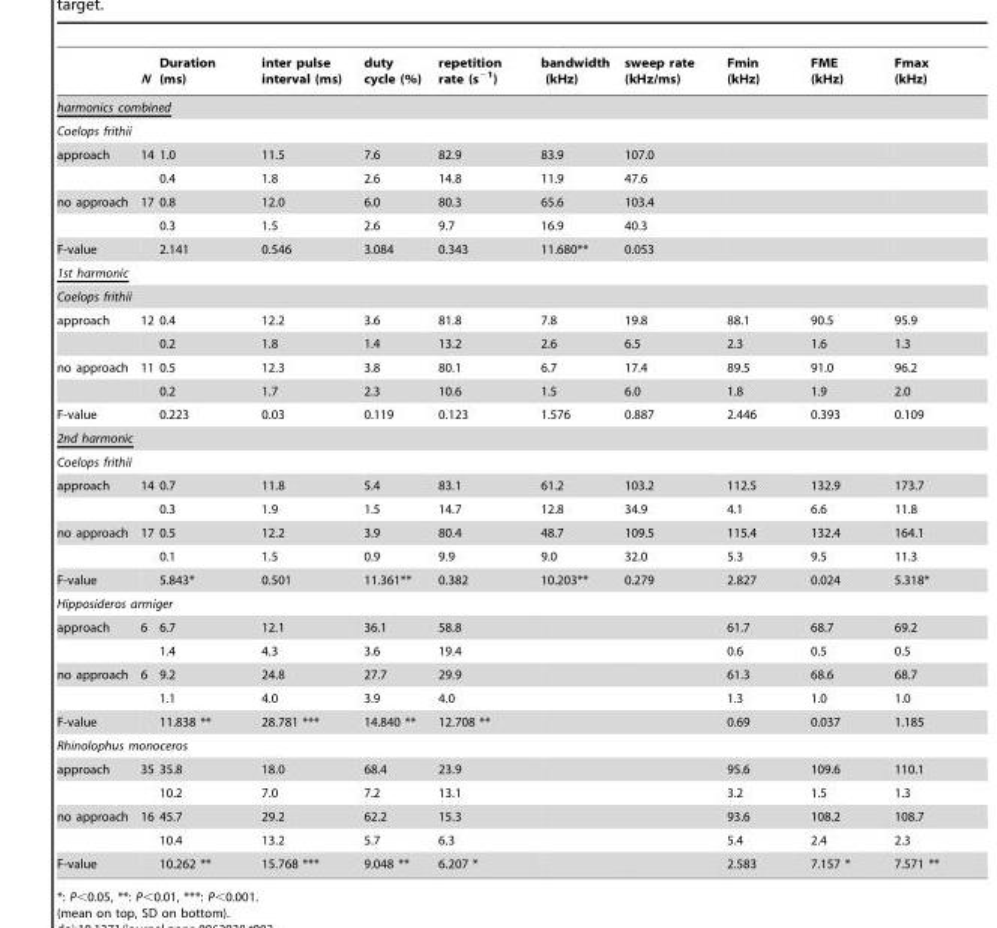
<table><thead><tr><td></td><td>N</td><td>Duration (ms)</td><td>inter pulse interval (ms)</td><td>duty cycle (%)</td><td>repetition rate (s<sup>−1</sup>)</td><td>bandwidth (kHz)</td><td>sweep rate (kHz/ms)</td><td>Fmin (kHz)</td><td>FME (kHz)</td><td>Fmax (kHz)</td></tr></thead><tbody><tr><td colspan="11">harmonics combined</td></tr><tr><td colspan="11">Coelops frithii</td></tr><tr><td rowspan="2">approach</td><td>14</td><td>1.0</td><td>11.5</td><td>7.6</td><td>82.9</td><td>83.9</td><td>107.0</td><td></td><td></td><td></td></tr><tr><td></td><td>0.4</td><td>1.8</td><td>2.6</td><td>14.8</td><td>11.9</td><td>47.6</td><td></td><td></td><td></td></tr><tr><td rowspan="2">no approach</td><td>17</td><td>0.8</td><td>12.0</td><td>6.0</td><td>80.3</td><td>65.6</td><td>103.4</td><td></td><td></td><td></td></tr><tr><td></td><td>0.3</td><td>1.5</td><td>2.6</td><td>9.7</td><td>16.9</td><td>40.3</td><td></td><td></td><td></td></tr><tr><td>F-value</td><td></td><td>2.141</td><td>0.546</td><td>3.084</td><td>0.343</td><td>11.680**</td><td>0.053</td><td></td><td></td><td></td></tr><tr><td colspan="11">1st harmonic</td></tr><tr><td colspan="11">Coelops frithii</td></tr><tr><td rowspan="2">approach</td><td>12</td><td>0.4</td><td>12.2</td><td>3.6</td><td>81.8</td><td>7.8</td><td>19.8</td><td>88.1</td><td>90.5</td><td>95.9</td></tr><tr><td></td><td>0.2</td><td>1.8</td><td>1.4</td><td>13.2</td><td>2.6</td><td>6.5</td><td>2.3</td><td>1.6</td><td>1.3</td></tr><tr><td rowspan="2">no approach</td><td>11</td><td>0.5</td><td>12.3</td><td>3.8</td><td>80.1</td><td>6.7</td><td>17.4</td><td>89.5</td><td>91.0</td><td>96.2</td></tr><tr><td></td><td>0.2</td><td>1.7</td><td>2.3</td><td>10.6</td><td>1.5</td><td>6.0</td><td>1.8</td><td>1.9</td><td>2.0</td></tr><tr><td>F-value</td><td></td><td>0.223</td><td>0.03</td><td>0.119</td><td>0.123</td><td>1.576</td><td>0.887</td><td>2.446</td><td>0.393</td><td>0.109</td></tr><tr><td colspan="11">2nd harmonic</td></tr><tr><td colspan="11">Coelops frithii</td></tr><tr><td rowspan="2">approach</td><td>14</td><td>0.7</td><td>11.8</td><td>5.4</td><td>83.1</td><td>61.2</td><td>103.2</td><td>112.5</td><td>132.9</td><td>173.7</td></tr><tr><td></td><td>0.3</td><td>1.9</td><td>1.5</td><td>14.7</td><td>12.8</td><td>34.9</td><td>4.1</td><td>6.6</td><td>11.8</td></tr><tr><td rowspan="2">no approach</td><td>17</td><td>0.5</td><td>12.2</td><td>3.9</td><td>80.4</td><td>48.7</td><td>109.5</td><td>115.4</td><td>132.4</td><td>164.1</td></tr><tr><td></td><td>0.1</td><td>1.5</td><td>0.9</td><td>9.9</td><td>9.0</td><td>32.0</td><td>5.3</td><td>9.5</td><td>11.3</td></tr><tr><td>F-value</td><td></td><td>5.843*</td><td>0.501</td><td>11.361**</td><td>0.382</td><td>10.203**</td><td>0.279</td><td>2.827</td><td>0.024</td><td>5.318*</td></tr><tr><td colspan="11">Hipposideros armiger</td></tr><tr><td rowspan="2">approach</td><td>6</td><td>6.7</td><td>12.1</td><td>36.1</td><td>58.8</td><td></td><td></td><td>61.7</td><td>68.7</td><td>69.2</td></tr><tr><td></td><td>1.4</td><td>4.3</td><td>3.6</td><td>19.4</td><td></td><td></td><td>0.6</td><td>0.5</td><td>0.5</td></tr><tr><td rowspan="2">no approach</td><td>6</td><td>9.2</td><td>24.8</td><td>27.7</td><td>29.9</td><td></td><td></td><td>61.3</td><td>68.6</td><td>68.7</td></tr><tr><td></td><td>1.1</td><td>4.0</td><td>3.9</td><td>4.0</td><td></td><td></td><td>1.3</td><td>1.0</td><td>1.0</td></tr><tr><td>F-value</td><td></td><td>11.838 **</td><td>28.781 ***</td><td>14.840 **</td><td>12.708 **</td><td></td><td></td><td>0.69</td><td>0.037</td><td>1.185</td></tr><tr><td colspan="11">Rhinolophus monoceros</td></tr><tr><td rowspan="2">approach</td><td>35</td><td>35.8</td><td>18.0</td><td>68.4</td><td>23.9</td><td></td><td></td><td>95.6</td><td>109.6</td><td>110.1</td></tr><tr><td></td><td>10.2</td><td>7.0</td><td>7.2</td><td>13.1</td><td></td><td></td><td>3.2</td><td>1.5</td><td>1.3</td></tr><tr><td rowspan="2">no approach</td><td>16</td><td>45.7</td><td>29.2</td><td>62.2</td><td>15.3</td><td></td><td></td><td>93.6</td><td>108.2</td><td>108.7</td></tr><tr><td></td><td>10.4</td><td>13.2</td><td>5.7</td><td>6.3</td><td></td><td></td><td>5.4</td><td>2.4</td><td>2.3</td></tr><tr><td>F-value</td><td></td><td>10.262 **</td><td>15.768 ***</td><td>9.048 **</td><td>6.207 *</td><td></td><td></td><td>2.583</td><td>7.157 *</td><td>7.571 **</td></tr></tbody></table>